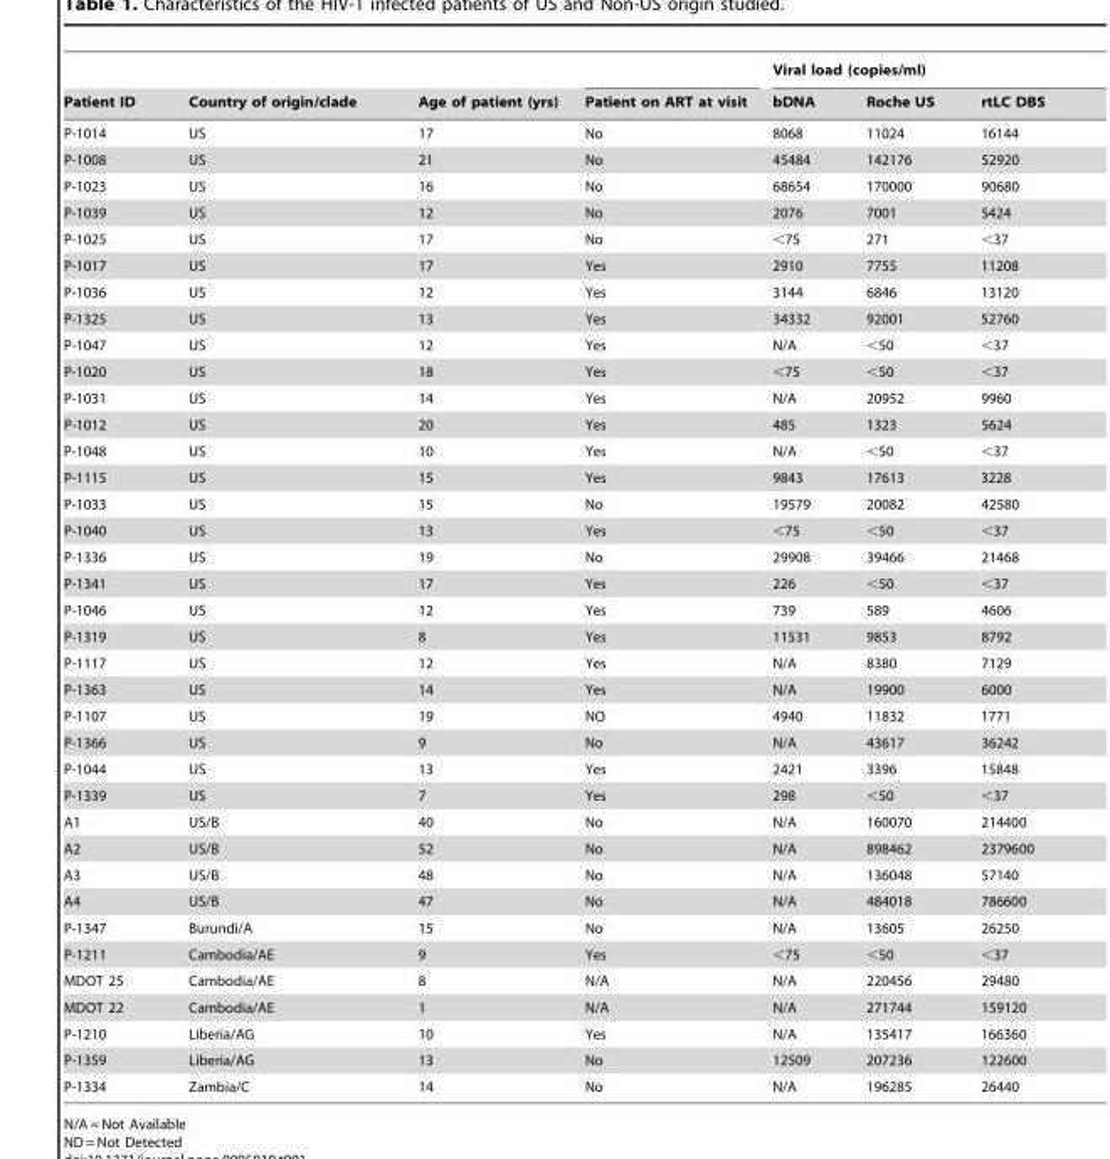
<table><thead><tr><td rowspan="2">Patient ID</td><td rowspan="2">Country of origin/clade</td><td rowspan="2">Age of patient (yrs)</td><td rowspan="2">Patient on ART at visit</td><td colspan="3">Viral load (copies/ml)</td></tr><tr><td>bDNA</td><td>Roche US</td><td>rtLC DBS</td></tr></thead><tbody><tr><td>P-1014</td><td>US</td><td>17</td><td>No</td><td>8068</td><td>11024</td><td>16144</td></tr><tr><td>P-1008</td><td>US</td><td>21</td><td>No</td><td>45484</td><td>142176</td><td>52920</td></tr><tr><td>P-1023</td><td>US</td><td>16</td><td>No</td><td>68654</td><td>170000</td><td>90680</td></tr><tr><td>P-1039</td><td>US</td><td>12</td><td>No</td><td>2076</td><td>7001</td><td>5424</td></tr><tr><td>P-1025</td><td>US</td><td>17</td><td>No</td><td>&lt;75</td><td>271</td><td>&lt;37</td></tr><tr><td>P-1017</td><td>US</td><td>17</td><td>Yes</td><td>2910</td><td>7755</td><td>11208</td></tr><tr><td>P-1036</td><td>US</td><td>12</td><td>Yes</td><td>3144</td><td>6846</td><td>13120</td></tr><tr><td>P-1325</td><td>US</td><td>13</td><td>Yes</td><td>34332</td><td>92001</td><td>52760</td></tr><tr><td>P-1047</td><td>US</td><td>12</td><td>Yes</td><td>N/A</td><td>&lt;50</td><td>&lt;37</td></tr><tr><td>P-1020</td><td>US</td><td>18</td><td>Yes</td><td>&lt;75</td><td>&lt;50</td><td>&lt;37</td></tr><tr><td>P-1031</td><td>US</td><td>14</td><td>Yes</td><td>N/A</td><td>20952</td><td>9960</td></tr><tr><td>P-1012</td><td>US</td><td>20</td><td>Yes</td><td>485</td><td>1323</td><td>5624</td></tr><tr><td>P-1048</td><td>US</td><td>10</td><td>Yes</td><td>N/A</td><td>&lt;50</td><td>&lt;37</td></tr><tr><td>P-1115</td><td>US</td><td>15</td><td>Yes</td><td>9843</td><td>17613</td><td>3228</td></tr><tr><td>P-1033</td><td>US</td><td>15</td><td>No</td><td>19579</td><td>20082</td><td>42580</td></tr><tr><td>P-1040</td><td>US</td><td>13</td><td>Yes</td><td>&lt;75</td><td>&lt;50</td><td>&lt;37</td></tr><tr><td>P-1336</td><td>US</td><td>19</td><td>No</td><td>29908</td><td>39466</td><td>21468</td></tr><tr><td>P-1341</td><td>US</td><td>17</td><td>Yes</td><td>226</td><td>&lt;50</td><td>&lt;37</td></tr><tr><td>P-1046</td><td>US</td><td>12</td><td>Yes</td><td>739</td><td>589</td><td>4606</td></tr><tr><td>P-1319</td><td>US</td><td>8</td><td>Yes</td><td>11531</td><td>9853</td><td>8792</td></tr><tr><td>P-1117</td><td>US</td><td>12</td><td>Yes</td><td>N/A</td><td>8380</td><td>7129</td></tr><tr><td>P-1363</td><td>US</td><td>14</td><td>Yes</td><td>N/A</td><td>19900</td><td>6000</td></tr><tr><td>P-1107</td><td>US</td><td>19</td><td>NO</td><td>4940</td><td>11832</td><td>1771</td></tr><tr><td>P-1366</td><td>US</td><td>9</td><td>No</td><td>N/A</td><td>43617</td><td>36242</td></tr><tr><td>P-1044</td><td>US</td><td>13</td><td>Yes</td><td>2421</td><td>3396</td><td>15848</td></tr><tr><td>P-1339</td><td>US</td><td>7</td><td>Yes</td><td>298</td><td>&lt;50</td><td>&lt;37</td></tr><tr><td>A1</td><td>US/B</td><td>40</td><td>No</td><td>N/A</td><td>160070</td><td>214400</td></tr><tr><td>A2</td><td>US/B</td><td>52</td><td>No</td><td>N/A</td><td>898462</td><td>2379600</td></tr><tr><td>A3</td><td>US/B</td><td>48</td><td>No</td><td>N/A</td><td>136048</td><td>57140</td></tr><tr><td>A4</td><td>US/B</td><td>47</td><td>No</td><td>N/A</td><td>484018</td><td>786600</td></tr><tr><td>P-1347</td><td>Burundi/A</td><td>15</td><td>No</td><td>N/A</td><td>13605</td><td>26250</td></tr><tr><td>P-1211</td><td>Cambodia/AE</td><td>9</td><td>Yes</td><td>&lt;75</td><td>&lt;50</td><td>&lt;37</td></tr><tr><td>MDOT 25</td><td>Cambodia/AE</td><td>8</td><td>N/A</td><td>N/A</td><td>220456</td><td>29480</td></tr><tr><td>MDOT 22</td><td>Cambodia/AE</td><td>1</td><td>N/A</td><td>N/A</td><td>271744</td><td>159120</td></tr><tr><td>P-1210</td><td>Liberia/AG</td><td>10</td><td>Yes</td><td>N/A</td><td>135417</td><td>166360</td></tr><tr><td>P-1359</td><td>Liberia/AG</td><td>13</td><td>No</td><td>12509</td><td>207236</td><td>122600</td></tr><tr><td>P-1334</td><td>Zambia/C</td><td>14</td><td>No</td><td>N/A</td><td>196285</td><td>26440</td></tr></tbody></table>